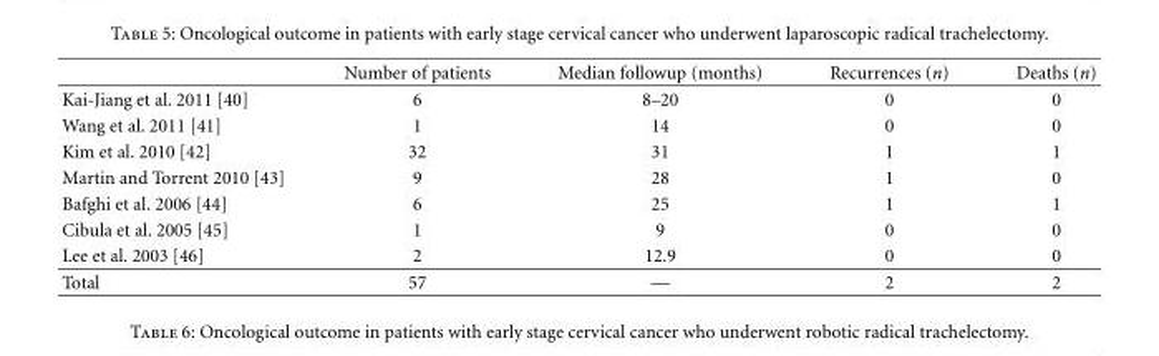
<table><thead><tr><td></td><td>Number of patients</td><td>Median followup (months)</td><td>Recurrences (n)</td><td>Deaths (n)</td></tr></thead><tbody><tr><td>Kai-Jiang et al. 2011 [40]</td><td>6</td><td>8–20</td><td>0</td><td>0</td></tr><tr><td>Wang et al. 2011 [41]</td><td>1</td><td>14</td><td>0</td><td>0</td></tr><tr><td>Kim et al. 2010 [42]</td><td>32</td><td>31</td><td>1</td><td>1</td></tr><tr><td>Martin and Torrent 2010 [43]</td><td>9</td><td>28</td><td>1</td><td>0</td></tr><tr><td>Bafghi et al. 2006 [44]</td><td>6</td><td>25</td><td>1</td><td>1</td></tr><tr><td>Cibula et al. 2005 [45]</td><td>1</td><td>9</td><td>0</td><td>0</td></tr><tr><td>Lee et al. 2003 [46]</td><td>2</td><td>12.9</td><td>0</td><td>0</td></tr><tr><td>Total</td><td>57</td><td>—</td><td>2</td><td>2</td></tr></tbody></table>